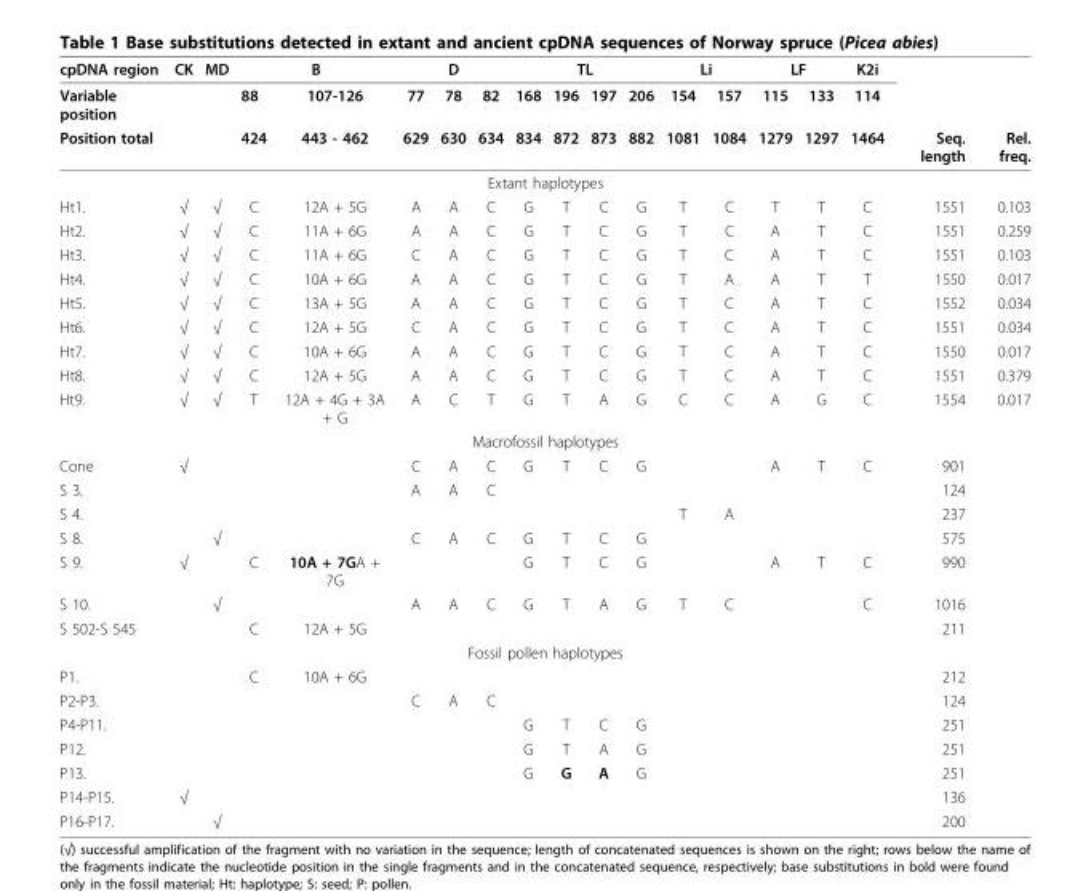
<table><thead><tr><td rowspan="3">cpDNA region Variable position Position total</td><td rowspan="3">CK</td><td rowspan="3">MD</td><td colspan="2">B</td><td colspan="3">D</td><td colspan="4">TL</td><td colspan="2">Li</td><td colspan="2">LF</td><td rowspan="3">K2i 114 1464</td><td rowspan="3">Seq. length</td><td rowspan="3">Rel. freq.</td></tr><tr><td rowspan="2">88 424</td><td rowspan="2">107-126 443 - 462</td><td rowspan="2">77 629</td><td rowspan="2">78 630</td><td rowspan="2">82 634</td><td rowspan="2">168 834</td><td rowspan="2">196 872</td><td rowspan="2">197 873</td><td rowspan="2">206 882</td><td rowspan="2">154 1081</td><td rowspan="2">157 1084</td><td rowspan="2">115 1279</td><td rowspan="2">133 1297</td></tr><tr></tr></thead><tbody><tr><td colspan="19">Extant haplotypes</td></tr><tr><td>Ht1.</td><td>√</td><td>√</td><td>C</td><td>12A + 5G</td><td>A</td><td>A</td><td>C</td><td>G</td><td>T</td><td>C</td><td>G</td><td>T</td><td>C</td><td>T</td><td>T</td><td>C</td><td>1551</td><td>0.103</td></tr><tr><td>Ht2.</td><td>√</td><td>√</td><td>C</td><td>11A + 6G</td><td>A</td><td>A</td><td>C</td><td>G</td><td>T</td><td>C</td><td>G</td><td>T</td><td>C</td><td>A</td><td>T</td><td>C</td><td>1551</td><td>0.259</td></tr><tr><td>Ht3.</td><td>√</td><td>√</td><td>C</td><td>11A + 6G</td><td>C</td><td>A</td><td>C</td><td>G</td><td>T</td><td>C</td><td>G</td><td>T</td><td>C</td><td>A</td><td>T</td><td>C</td><td>1551</td><td>0.103</td></tr><tr><td>Ht4.</td><td>√</td><td>√</td><td>C</td><td>10A + 6G</td><td>A</td><td>A</td><td>C</td><td>G</td><td>T</td><td>C</td><td>G</td><td>T</td><td>A</td><td>A</td><td>T</td><td>T</td><td>1550</td><td>0.017</td></tr><tr><td>Ht5.</td><td>√</td><td>√</td><td>C</td><td>13A + 5G</td><td>A</td><td>A</td><td>C</td><td>G</td><td>T</td><td>C</td><td>G</td><td>T</td><td>C</td><td>A</td><td>T</td><td>C</td><td>1552</td><td>0.034</td></tr><tr><td>Ht6.</td><td>√</td><td>√</td><td>C</td><td>12A + 5G</td><td>C</td><td>A</td><td>C</td><td>G</td><td>T</td><td>C</td><td>G</td><td>T</td><td>C</td><td>A</td><td>T</td><td>C</td><td>1551</td><td>0.034</td></tr><tr><td>Ht7.</td><td>√</td><td>√</td><td>C</td><td>10A + 6G</td><td>A</td><td>A</td><td>C</td><td>G</td><td>T</td><td>C</td><td>G</td><td>T</td><td>C</td><td>A</td><td>T</td><td>C</td><td>1550</td><td>0.017</td></tr><tr><td>Ht8.</td><td>√</td><td>√</td><td>C</td><td>12A + 5G</td><td>A</td><td>A</td><td>C</td><td>G</td><td>T</td><td>C</td><td>G</td><td>T</td><td>C</td><td>A</td><td>T</td><td>C</td><td>1551</td><td>0.379</td></tr><tr><td>Ht9.</td><td>√</td><td>√</td><td>T</td><td>12A + 4G + 3A + G</td><td>A</td><td>C</td><td>T</td><td>G</td><td>T</td><td>A</td><td>G</td><td>C</td><td>C</td><td>A</td><td>G</td><td>C</td><td>1554</td><td>0.017</td></tr><tr><td colspan="19">Macrofossil haplotypes</td></tr><tr><td>Cone</td><td>√</td><td></td><td></td><td></td><td>C</td><td>A</td><td>C</td><td>G</td><td>T</td><td>C</td><td>G</td><td></td><td></td><td>A</td><td>T</td><td>C</td><td>901</td><td></td></tr><tr><td>S 3.</td><td></td><td></td><td></td><td></td><td>A</td><td>A</td><td>C</td><td></td><td></td><td></td><td></td><td></td><td></td><td></td><td></td><td></td><td>124</td><td></td></tr><tr><td>S 4.</td><td></td><td></td><td></td><td></td><td></td><td></td><td></td><td></td><td></td><td></td><td></td><td>T</td><td>A</td><td></td><td></td><td></td><td>237</td><td></td></tr><tr><td>S 8.</td><td></td><td>√</td><td></td><td></td><td>C</td><td>A</td><td>C</td><td>G</td><td>T</td><td>C</td><td>G</td><td></td><td></td><td></td><td></td><td></td><td>575</td><td></td></tr><tr><td>S 9.</td><td>√</td><td></td><td>C</td><td>10A + 7GA + 7G</td><td></td><td></td><td></td><td>G</td><td>T</td><td>C</td><td>G</td><td></td><td></td><td>A</td><td>T</td><td>C</td><td>990</td><td></td></tr><tr><td>S 10.</td><td></td><td>√</td><td></td><td></td><td>A</td><td>A</td><td>C</td><td>G</td><td>T</td><td>A</td><td>G</td><td>T</td><td>C</td><td></td><td></td><td>C</td><td>1016</td><td></td></tr><tr><td>S 502-S 545</td><td></td><td></td><td>C</td><td>12A + 5G</td><td></td><td></td><td></td><td></td><td></td><td></td><td></td><td></td><td></td><td></td><td></td><td></td><td>211</td><td></td></tr><tr><td colspan="19">Fossil pollen haplotypes</td></tr><tr><td>P1.</td><td></td><td></td><td>C</td><td>10A + 6G</td><td></td><td></td><td></td><td></td><td></td><td></td><td></td><td></td><td></td><td></td><td></td><td></td><td>212</td><td></td></tr><tr><td>P2-P3.</td><td></td><td></td><td></td><td></td><td>C</td><td>A</td><td>C</td><td></td><td></td><td></td><td></td><td></td><td></td><td></td><td></td><td></td><td>124</td><td></td></tr><tr><td>P4-P11.</td><td></td><td></td><td></td><td></td><td></td><td></td><td></td><td>G</td><td>T</td><td>C</td><td>G</td><td></td><td></td><td></td><td></td><td></td><td>251</td><td></td></tr><tr><td>P12.</td><td></td><td></td><td></td><td></td><td></td><td></td><td></td><td>G</td><td>T</td><td>A</td><td>G</td><td></td><td></td><td></td><td></td><td></td><td>251</td><td></td></tr><tr><td>P13.</td><td></td><td></td><td></td><td></td><td></td><td></td><td></td><td>G</td><td>G</td><td>A</td><td>G</td><td></td><td></td><td></td><td></td><td></td><td>251</td><td></td></tr><tr><td>P14-P15.</td><td>√</td><td></td><td></td><td></td><td></td><td></td><td></td><td></td><td></td><td></td><td></td><td></td><td></td><td></td><td></td><td></td><td>136</td><td></td></tr><tr><td>P16-P17.</td><td></td><td>√</td><td></td><td></td><td></td><td></td><td></td><td></td><td></td><td></td><td></td><td></td><td></td><td></td><td></td><td></td><td>200</td><td></td></tr></tbody></table>